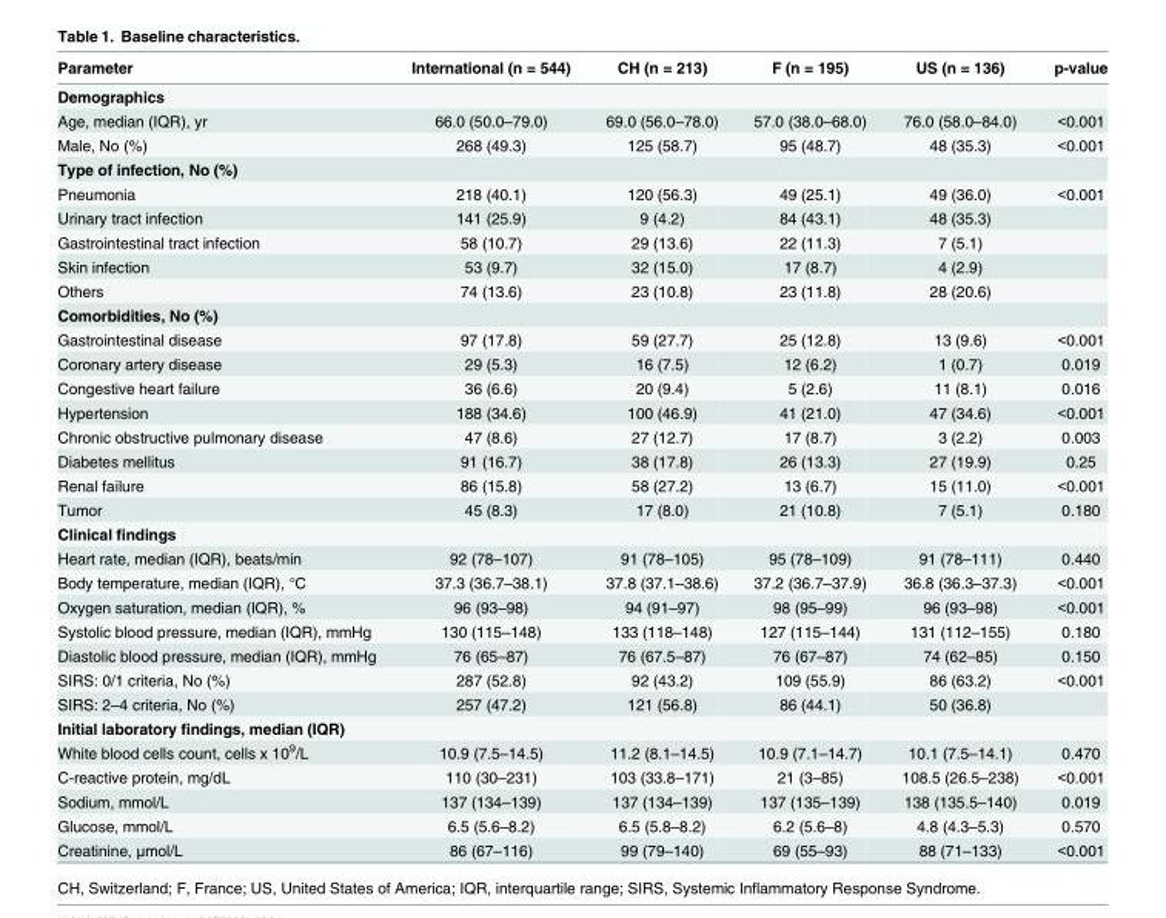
<table><thead><tr><td>Parameter</td><td>International (n = 544)</td><td>CH (n = 213)</td><td>F (n = 195)</td><td>US (n = 136)</td><td>p-value</td></tr></thead><tbody><tr><td colspan="6">Demographics</td></tr><tr><td>Age, median (IQR), yr</td><td>66.0 (50.0–79.0)</td><td>69.0 (56.0–78.0)</td><td>57.0 (38.0–68.0)</td><td>76.0 (58.0–84.0)</td><td>&lt;0.001</td></tr><tr><td>Male, No (%)</td><td>268 (49.3)</td><td>125 (58.7)</td><td>95 (48.7)</td><td>48 (35.3)</td><td>&lt;0.001</td></tr><tr><td colspan="6">Type of infection, No (%)</td></tr><tr><td>Pneumonia</td><td>218 (40.1)</td><td>120 (56.3)</td><td>49 (25.1)</td><td>49 (36.0)</td><td>&lt;0.001</td></tr><tr><td>Urinary tract infection</td><td>141 (25.9)</td><td>9 (4.2)</td><td>84 (43.1)</td><td>48 (35.3)</td><td></td></tr><tr><td>Gastrointestinal tract infection</td><td>58 (10.7)</td><td>29 (13.6)</td><td>22 (11.3)</td><td>7 (5.1)</td><td></td></tr><tr><td>Skin infection</td><td>53 (9.7)</td><td>32 (15.0)</td><td>17 (8.7)</td><td>4 (2.9)</td><td></td></tr><tr><td>Others</td><td>74 (13.6)</td><td>23 (10.8)</td><td>23 (11.8)</td><td>28 (20.6)</td><td></td></tr><tr><td colspan="6">Comorbidities, No (%)</td></tr><tr><td>Gastrointestinal disease</td><td>97 (17.8)</td><td>59 (27.7)</td><td>25 (12.8)</td><td>13 (9.6)</td><td>&lt;0.001</td></tr><tr><td>Coronary artery disease</td><td>29 (5.3)</td><td>16 (7.5)</td><td>12 (6.2)</td><td>1 (0.7)</td><td>0.019</td></tr><tr><td>Congestive heart failure</td><td>36 (6.6)</td><td>20 (9.4)</td><td>5 (2.6)</td><td>11 (8.1)</td><td>0.016</td></tr><tr><td>Hypertension</td><td>188 (34.6)</td><td>100 (46.9)</td><td>41 (21.0)</td><td>47 (34.6)</td><td>&lt;0.001</td></tr><tr><td>Chronic obstructive pulmonary disease</td><td>47 (8.6)</td><td>27 (12.7)</td><td>17 (8.7)</td><td>3 (2.2)</td><td>0.003</td></tr><tr><td>Diabetes mellitus</td><td>91 (16.7)</td><td>38 (17.8)</td><td>26 (13.3)</td><td>27 (19.9)</td><td>0.25</td></tr><tr><td>Renal failure</td><td>86 (15.8)</td><td>58 (27.2)</td><td>13 (6.7)</td><td>15 (11.0)</td><td>&lt;0.001</td></tr><tr><td>Tumor</td><td>45 (8.3)</td><td>17 (8.0)</td><td>21 (10.8)</td><td>7 (5.1)</td><td>0.180</td></tr><tr><td colspan="6">Clinical findings</td></tr><tr><td>Heart rate, median (IQR), beats/min</td><td>92 (78–107)</td><td>91 (78–105)</td><td>95 (78–109)</td><td>91 (78–111)</td><td>0.440</td></tr><tr><td>Body temperature, median (IQR), °C</td><td>37.3 (36.7–38.1)</td><td>37.8 (37.1–38.6)</td><td>37.2 (36.7–37.9)</td><td>36.8 (36.3–37.3)</td><td>&lt;0.001</td></tr><tr><td>Oxygen saturation, median (IQR), %</td><td>96 (93–98)</td><td>94 (91–97)</td><td>98 (95–99)</td><td>96 (93–98)</td><td>&lt;0.001</td></tr><tr><td>Systolic blood pressure, median (IQR), mmHg</td><td>130 (115–148)</td><td>133 (118–148)</td><td>127 (115–144)</td><td>131 (112–155)</td><td>0.180</td></tr><tr><td>Diastolic blood pressure, median (IQR), mmHg</td><td>76 (65–87)</td><td>76 (67.5–87)</td><td>76 (67–87)</td><td>74 (62–85)</td><td>0.150</td></tr><tr><td>SIRS: 0/1 criteria, No (%)</td><td>287 (52.8)</td><td>92 (43.2)</td><td>109 (55.9)</td><td>86 (63.2)</td><td>&lt;0.001</td></tr><tr><td>SIRS: 2–4 criteria, No (%)</td><td>257 (47.2)</td><td>121 (56.8)</td><td>86 (44.1)</td><td>50 (36.8)</td><td></td></tr><tr><td colspan="6">Initial laboratory findings, median (IQR)</td></tr><tr><td>White blood cells count, cells x 10<sup>9</sup>/L</td><td>10.9 (7.5–14.5)</td><td>11.2 (8.1–14.5)</td><td>10.9 (7.1–14.7)</td><td>10.1 (7.5–14.1)</td><td>0.470</td></tr><tr><td>C-reactive protein, mg/dL</td><td>110 (30–231)</td><td>103 (33.8–171)</td><td>21 (3–85)</td><td>108.5 (26.5–238)</td><td>&lt;0.001</td></tr><tr><td>Sodium, mmol/L</td><td>137 (134–139)</td><td>137 (134–139)</td><td>137 (135–139)</td><td>138 (135.5–140)</td><td>0.019</td></tr><tr><td>Glucose, mmol/L</td><td>6.5 (5.6–8.2)</td><td>6.5 (5.8–8.2)</td><td>6.2 (5.6–8)</td><td>4.8 (4.3–5.3)</td><td>0.570</td></tr><tr><td>Creatinine, μmol/L</td><td>86 (67–116)</td><td>99 (79–140)</td><td>69 (55–93)</td><td>88 (71–133)</td><td>&lt;0.001</td></tr></tbody></table>